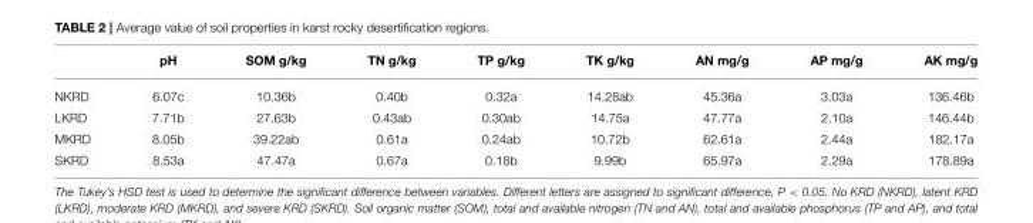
<table><thead><tr><td></td><td>pH</td><td>SOM g/kg</td><td>TN g/kg</td><td>TP g/kg</td><td>TK g/kg</td><td>AN mg/g</td><td>AP mg/g</td><td>AK mg/g</td></tr></thead><tbody><tr><td>NKRD</td><td>6.07c</td><td>10.36b</td><td>0.40b</td><td>0.32a</td><td>14.28ab</td><td>45.36a</td><td>3.03a</td><td>136.46b</td></tr><tr><td>LKRD</td><td>7.71b</td><td>27.63b</td><td>0.43ab</td><td>0.30ab</td><td>14.75a</td><td>47.77a</td><td>2.10a</td><td>146.44b</td></tr><tr><td>MKRD</td><td>8.05b</td><td>39.22ab</td><td>0.61a</td><td>0.24ab</td><td>10.72b</td><td>62.61a</td><td>2.44a</td><td>182.17a</td></tr><tr><td>SKRD</td><td>8.53a</td><td>47.47a</td><td>0.67a</td><td>0.18b</td><td>9.99b</td><td>65.97a</td><td>2.29a</td><td>178.89a</td></tr></tbody></table>